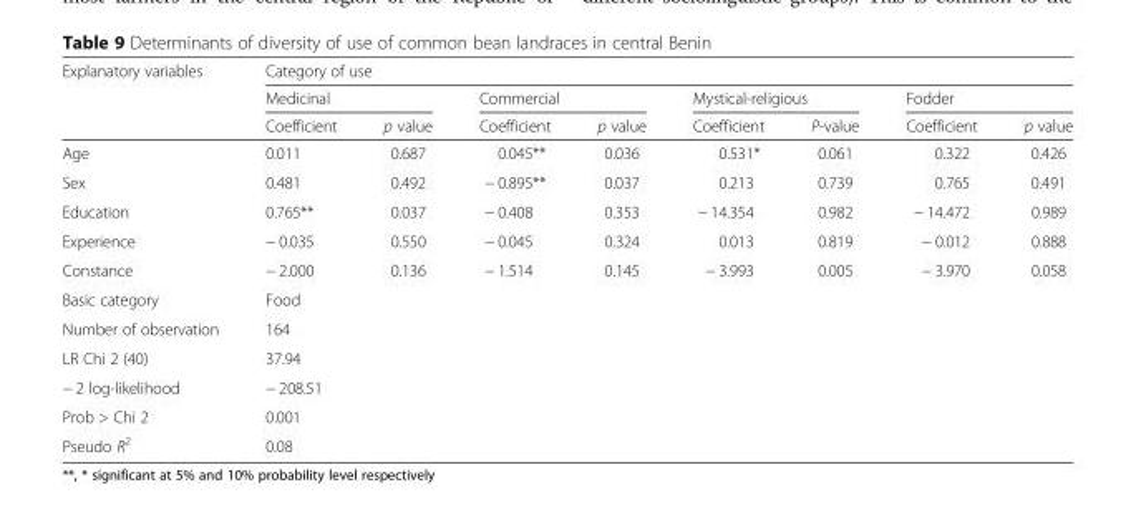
<table><thead><tr><td rowspan="3">Explanatory variables</td><td colspan="8">Category of use</td></tr><tr><td colspan="2">Medicinal</td><td colspan="2">Commercial</td><td colspan="2">Mystical-religious</td><td colspan="2">Fodder</td></tr><tr><td>Coefficient</td><td>p value</td><td>Coefficient</td><td>p value</td><td>Coefficient</td><td>P-value</td><td>Coefficient</td><td>p value</td></tr></thead><tbody><tr><td>Age</td><td>0.011</td><td>0.687</td><td>0.045**</td><td>0.036</td><td>0.531*</td><td>0.061</td><td>0.322</td><td>0.426</td></tr><tr><td>Sex</td><td>0.481</td><td>0.492</td><td>− 0.895**</td><td>0.037</td><td>0.213</td><td>0.739</td><td>0.765</td><td>0.491</td></tr><tr><td>Education</td><td>0.765**</td><td>0.037</td><td>− 0.408</td><td>0.353</td><td>− 14.354</td><td>0.982</td><td>− 14.472</td><td>0.989</td></tr><tr><td>Experience</td><td>− 0.035</td><td>0.550</td><td>− 0.045</td><td>0.324</td><td>0.013</td><td>0.819</td><td>− 0.012</td><td>0.888</td></tr><tr><td>Constance</td><td>− 2.000</td><td>0.136</td><td>− 1.514</td><td>0.145</td><td>− 3.993</td><td>0.005</td><td>− 3.970</td><td>0.058</td></tr><tr><td>Basic category</td><td>Food</td><td></td><td></td><td></td><td></td><td></td><td></td><td></td></tr><tr><td>Number of observation</td><td>164</td><td></td><td></td><td></td><td></td><td></td><td></td><td></td></tr><tr><td>LR Chi 2 (40)</td><td>37.94</td><td></td><td></td><td></td><td></td><td></td><td></td><td></td></tr><tr><td>− 2 log-likelihood</td><td>− 208.51</td><td></td><td></td><td></td><td></td><td></td><td></td><td></td></tr><tr><td>Prob &gt; Chi 2</td><td>0.001</td><td></td><td></td><td></td><td></td><td></td><td></td><td></td></tr><tr><td>Pseudo R<sup>2</sup></td><td>0.08</td><td></td><td></td><td></td><td></td><td></td><td></td><td></td></tr></tbody></table>